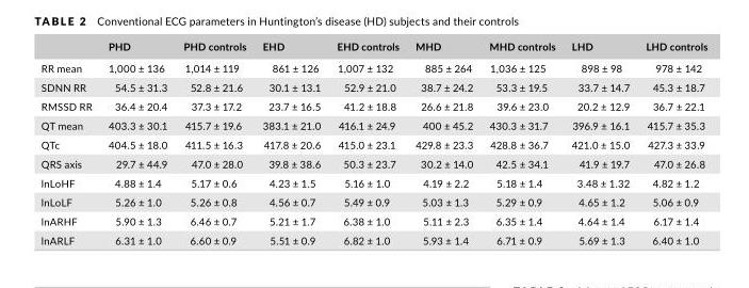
<table><thead><tr><td></td><td>PHD</td><td>PHD controls</td><td>EHD</td><td>EHD controls</td><td>MHD</td><td>MHD controls</td><td>LHD</td><td>LHD controls</td></tr></thead><tbody><tr><td>RR mean</td><td>1,000 ± 136</td><td>1,014 ± 119</td><td>861 ± 126</td><td>1,007 ± 132</td><td>885 ± 264</td><td>1,036 ± 125</td><td>898 ± 98</td><td>978 ± 142</td></tr><tr><td>SDNN RR</td><td>54.5 ± 31.3</td><td>52.8 ± 21.6</td><td>30.1 ± 13.1</td><td>52.9 ± 21.0</td><td>38.7 ± 24.2</td><td>53.3 ± 19.5</td><td>33.7 ± 14.7</td><td>45.3 ± 18.7</td></tr><tr><td>RMSSD RR</td><td>36.4 ± 20.4</td><td>37.3 ± 17.2</td><td>23.7 ± 16.5</td><td>41.2 ± 18.8</td><td>26.6 ± 21.8</td><td>39.6 ± 23.0</td><td>20.2 ± 12.9</td><td>36.7 ± 22.1</td></tr><tr><td>QT mean</td><td>403.3 ± 30.1</td><td>415.7 ± 19.6</td><td>383.1 ± 21.0</td><td>416.1 ± 24.9</td><td>400 ± 45.2</td><td>430.3 ± 31.7</td><td>396.9 ± 16.1</td><td>415.7 ± 35.3</td></tr><tr><td>QTc</td><td>404.5 ± 18.0</td><td>411.5 ± 16.3</td><td>417.8 ± 20.6</td><td>415.0 ± 23.1</td><td>429.8 ± 23.3</td><td>428.8 ± 36.7</td><td>421.0 ± 15.0</td><td>427.3 ± 33.9</td></tr><tr><td>QRS axis</td><td>29.7 ± 44.9</td><td>47.0 ± 28.0</td><td>39.8 ± 38.6</td><td>50.3 ± 23.7</td><td>30.2 ± 14.0</td><td>42.5 ± 34.1</td><td>41.9 ± 19.7</td><td>47.0 ± 26.8</td></tr><tr><td>lnLoHF</td><td>4.88 ± 1.4</td><td>5.17 ± 0.6</td><td>4.23 ± 1.5</td><td>5.16 ± 1.0</td><td>4.19 ± 2.2</td><td>5.18 ± 1.4</td><td>3.48 ± 1.32</td><td>4.82 ± 1.2</td></tr><tr><td>lnLoLF</td><td>5.26 ± 1.0</td><td>5.26 ± 0.8</td><td>4.56 ± 0.7</td><td>5.49 ± 0.9</td><td>5.03 ± 1.3</td><td>5.29 ± 0.9</td><td>4.65 ± 1.2</td><td>5.06 ± 0.9</td></tr><tr><td>lnARHF</td><td>5.90 ± 1.3</td><td>6.46 ± 0.7</td><td>5.21 ± 1.7</td><td>6.38 ± 1.0</td><td>5.11 ± 2.3</td><td>6.35 ± 1.4</td><td>4.64 ± 1.4</td><td>6.17 ± 1.4</td></tr><tr><td>lnARLF</td><td>6.31 ± 1.0</td><td>6.60 ± 0.9</td><td>5.51 ± 0.9</td><td>6.82 ± 1.0</td><td>5.93 ± 1.4</td><td>6.71 ± 0.9</td><td>5.69 ± 1.3</td><td>6.40 ± 1.0</td></tr></tbody></table>